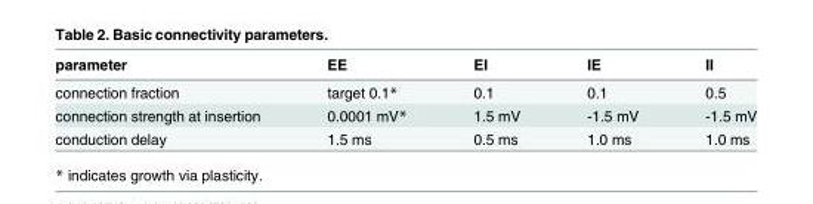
<table><thead><tr><td>parameter</td><td>EE</td><td>EI</td><td>IE</td><td>II</td></tr></thead><tbody><tr><td>connection fraction</td><td>target 0.1*</td><td>0.1</td><td>0.1</td><td>0.5</td></tr><tr><td>connection strength at insertion</td><td>0.0001 mV*</td><td>1.5 mV</td><td>-1.5 mV</td><td>-1.5 mV</td></tr><tr><td>conduction delay</td><td>1.5 ms</td><td>0.5 ms</td><td>1.0 ms</td><td>1.0 ms</td></tr></tbody></table>